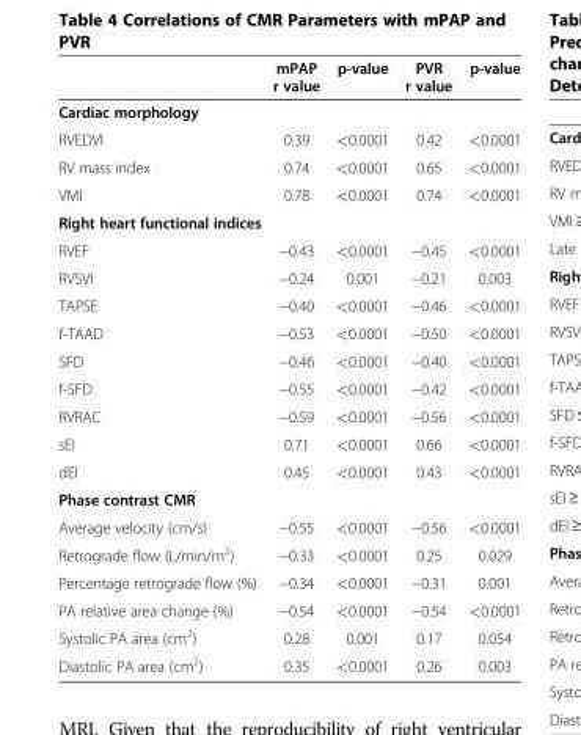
<table><thead><tr><td></td><td>mPAP r value</td><td>p-value</td><td>PVR r value</td><td>p-value</td></tr></thead><tbody><tr><td colspan="5">Cardiac morphology</td></tr><tr><td>RVEDVI</td><td>0.39</td><td>&lt;0.0001</td><td>0.42</td><td>&lt;0.0001</td></tr><tr><td>RV mass index</td><td>0.74</td><td>&lt;0.0001</td><td>0.65</td><td>&lt;0.0001</td></tr><tr><td>VMI</td><td>0.78</td><td>&lt;0.0001</td><td>0.74</td><td>&lt;0.0001</td></tr><tr><td colspan="5">Right heart functional indices</td></tr><tr><td>RVEF</td><td>−0.43</td><td>&lt;0.0001</td><td>−0.45</td><td>&lt;0.0001</td></tr><tr><td>RVSVI</td><td>−0.24</td><td>0.001</td><td>−0.21</td><td>0.003</td></tr><tr><td>TAPSE</td><td>−0.40</td><td>&lt;0.0001</td><td>−0.46</td><td>&lt;0.0001</td></tr><tr><td>f-TAAD</td><td>−0.53</td><td>&lt;0.0001</td><td>−0.50</td><td>&lt;0.0001</td></tr><tr><td>SFD</td><td>−0.46</td><td>&lt;0.0001</td><td>−0.40</td><td>&lt;0.0001</td></tr><tr><td>f-SFD</td><td>−0.55</td><td>&lt;0.0001</td><td>−0.42</td><td>&lt;0.0001</td></tr><tr><td>RVRAC</td><td>−0.59</td><td>&lt;0.0001</td><td>−0.56</td><td>&lt;0.0001</td></tr><tr><td>sEI</td><td>0.71</td><td>&lt;0.0001</td><td>0.66</td><td>&lt;0.0001</td></tr><tr><td>dEI</td><td>0.45</td><td>&lt;0.0001</td><td>0.43</td><td>&lt;0.0001</td></tr><tr><td colspan="5">Phase contrast CMR</td></tr><tr><td>Average velocity (cm/s)</td><td>−0.55</td><td>&lt;0.0001</td><td>−0.56</td><td>&lt;0.0001</td></tr><tr><td>Retrograde flow (L/min/m<sup>2</sup>)</td><td>−0.33</td><td>&lt;0.0001</td><td>0.25</td><td>0.029</td></tr><tr><td>Percentage retrograde flow (%)</td><td>−0.34</td><td>&lt;0.0001</td><td>−0.31</td><td>0.001</td></tr><tr><td>PA relative area change (%)</td><td>−0.54</td><td>&lt;0.0001</td><td>−0.54</td><td>&lt;0.0001</td></tr><tr><td>Systolic PA area (cm<sup>2</sup>)</td><td>0.28</td><td>0.001</td><td>0.17</td><td>0.054</td></tr><tr><td>Diastolic PA area (cm<sup>2</sup>)</td><td>0.35</td><td>&lt;0.0001</td><td>0.26</td><td>0.003</td></tr></tbody></table>